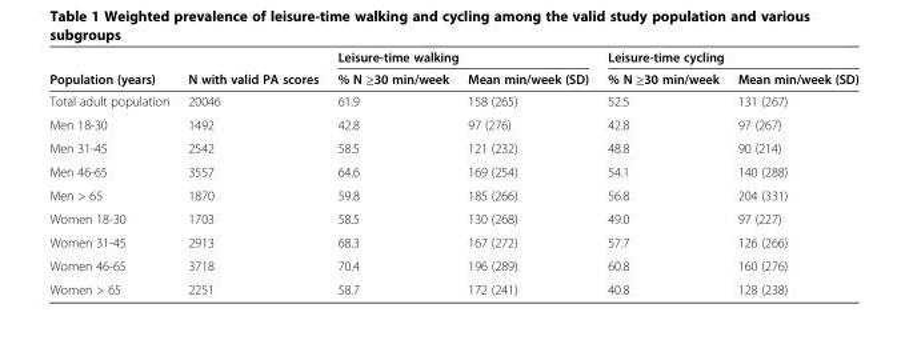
<table><thead><tr><td rowspan="2">Population (years)</td><td rowspan="2">N with valid PA scores</td><td colspan="2">Leisure-time walking</td><td colspan="2">Leisure-time cycling</td></tr><tr><td>% N ≥30 min/week</td><td>Mean min/week (SD)</td><td>% N ≥30 min/week</td><td>Mean min/week (SD)</td></tr></thead><tbody><tr><td>Total adult population</td><td>20046</td><td>61.9</td><td>158 (265)</td><td>52.5</td><td>131 (267)</td></tr><tr><td>Men 18-30</td><td>1492</td><td>42.8</td><td>97 (276)</td><td>42.8</td><td>97 (267)</td></tr><tr><td>Men 31-45</td><td>2542</td><td>58.5</td><td>121 (232)</td><td>48.8</td><td>90 (214)</td></tr><tr><td>Men 46-65</td><td>3557</td><td>64.6</td><td>169 (254)</td><td>54.1</td><td>140 (288)</td></tr><tr><td>Men &gt; 65</td><td>1870</td><td>59.8</td><td>185 (266)</td><td>56.8</td><td>204 (331)</td></tr><tr><td>Women 18-30</td><td>1703</td><td>58.5</td><td>130 (268)</td><td>49.0</td><td>97 (227)</td></tr><tr><td>Women 31-45</td><td>2913</td><td>68.3</td><td>167 (272)</td><td>57.7</td><td>126 (266)</td></tr><tr><td>Women 46-65</td><td>3718</td><td>70.4</td><td>196 (289)</td><td>60.8</td><td>160 (276)</td></tr><tr><td>Women &gt; 65</td><td>2251</td><td>58.7</td><td>172 (241)</td><td>40.8</td><td>128 (238)</td></tr></tbody></table>